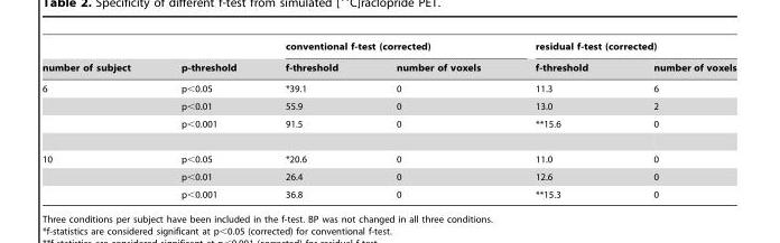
<table><thead><tr><td rowspan="2">number of subject</td><td rowspan="2">p-threshold</td><td colspan="2">conventional f-test (corrected)</td><td colspan="2">residual f-test (corrected)</td></tr><tr><td>f-threshold</td><td>number of voxels</td><td>f-threshold</td><td>number of voxels</td></tr></thead><tbody><tr><td rowspan="3">6</td><td>p&lt;0.05</td><td>*39.1</td><td>0</td><td>11.3</td><td>6</td></tr><tr><td>p&lt;0.01</td><td>55.9</td><td>0</td><td>13.0</td><td>2</td></tr><tr><td>p&lt;0.001</td><td>91.5</td><td>0</td><td>**15.6</td><td>0</td></tr><tr><td rowspan="3">10</td><td>p&lt;0.05</td><td>*20.6</td><td>0</td><td>11.0</td><td>0</td></tr><tr><td>p&lt;0.01</td><td>26.4</td><td>0</td><td>12.6</td><td>0</td></tr><tr><td>p&lt;0.001</td><td>36.8</td><td>0</td><td>**15.3</td><td>0</td></tr></tbody></table>